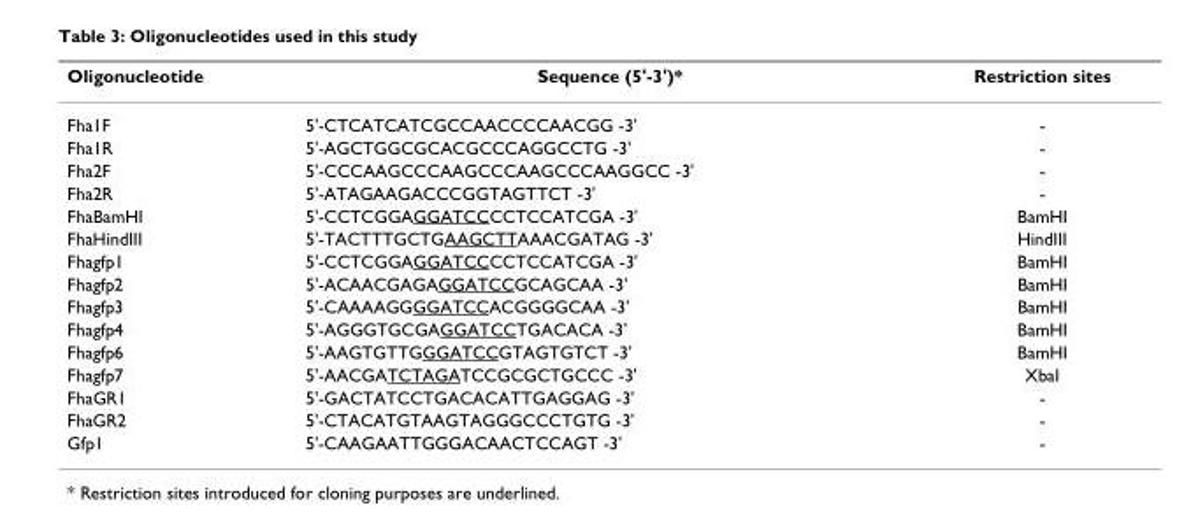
<table><thead><tr><td>Oligonucleotide</td><td>Sequence (5&#x27;-3&#x27;)*</td><td>Restriction sites</td></tr></thead><tbody><tr><td>Fha1F</td><td>5&#x27;-CTCATCATCGCCAACCCCAACGG -3&#x27;</td><td>-</td></tr><tr><td>Fha1R</td><td>5&#x27;-AGCTGGCGCACGCCCAGGCCTG -3&#x27;</td><td>-</td></tr><tr><td>Fha2F</td><td>5&#x27;-CCCAAGCCCAAGCCCAAGCCCAAGGCC -3&#x27;</td><td>-</td></tr><tr><td>Fha2R</td><td>5&#x27;-ATAGAAGACCCGGTAGTTCT -3&#x27;</td><td>-</td></tr><tr><td>FhaBamHI</td><td>5&#x27;-CCTCGGAGGATCCCCTCCATCGA -3&#x27;</td><td>BamHI</td></tr><tr><td>FhaHindIII</td><td>5&#x27;-TACTTTGCTGAAGCTTAAACGATAG -3&#x27;</td><td>HindIII</td></tr><tr><td>Fhagfp1</td><td>5&#x27;-CCTCGGAGGATCCCCTCCATCGA -3&#x27;</td><td>BamHI</td></tr><tr><td>Fhagfp2</td><td>5&#x27;-ACAACGAGAGGATCCGCAGCAA -3&#x27;</td><td>BamHI</td></tr><tr><td>Fhagfp3</td><td>5&#x27;-CAAAAGGGGATCCACGGGGCAA -3&#x27;</td><td>BamHI</td></tr><tr><td>Fhagfp4</td><td>5&#x27;-AGGGTGCGAGGATCCTGACACA -3&#x27;</td><td>BamHI</td></tr><tr><td>Fhagfp6</td><td>5&#x27;-AAGTGTTGGGATCCGTAGTGTCT -3&#x27;</td><td>BamHI</td></tr><tr><td>Fhagfp7</td><td>5&#x27;-AACGATCTAGATCCGCGCTGCCC -3&#x27;</td><td>XbaI</td></tr><tr><td>FhaGR1</td><td>5&#x27;-GACTATCCTGACACATTGAGGAG -3&#x27;</td><td>-</td></tr><tr><td>FhaGR2</td><td>5&#x27;-CTACATGTAAGTAGGGCCCTGTG -3&#x27;</td><td>-</td></tr><tr><td>Gfp1</td><td>5&#x27;-CAAGAATTGGGACAACTCCAGT -3&#x27;</td><td>-</td></tr></tbody></table>